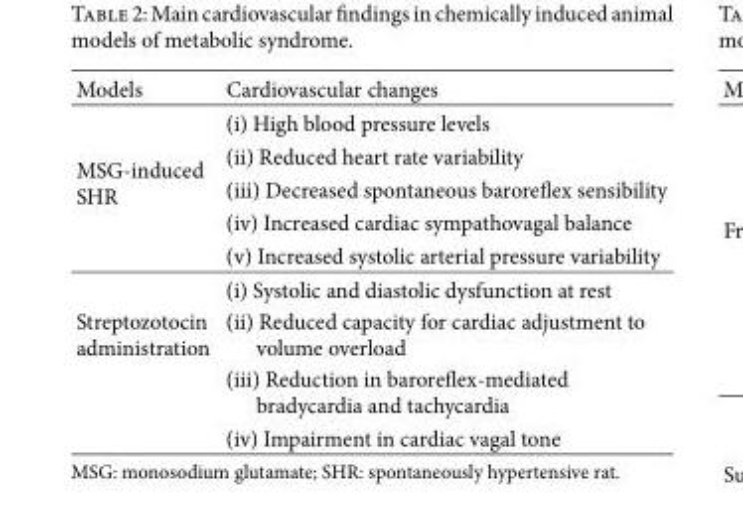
<table><thead><tr><td>Models</td><td>Cardiovascular changes</td></tr></thead><tbody><tr><td rowspan="5">MSG-induced SHR</td><td>(i) High blood pressure levels</td></tr><tr><td>(ii) Reduced heart rate variability</td></tr><tr><td>(iii) Decreased spontaneous baroreflex sensibility</td></tr><tr><td>(iv) Increased cardiac sympathovagal balance</td></tr><tr><td>(v) Increased systolic arterial pressure variability</td></tr><tr><td rowspan="4">Streptozotocin administration</td><td>(i) Systolic and diastolic dysfunction at rest</td></tr><tr><td>(ii) Reduced capacity for cardiac adjustment to volume overload</td></tr><tr><td>(iii) Reduction in baroreflex-mediated bradycardia and tachycardia</td></tr><tr><td>(iv) Impairment in cardiac vagal tone</td></tr></tbody></table>